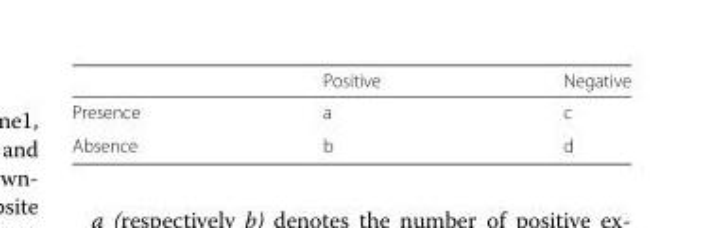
<table><thead><tr><td></td><td>Positive</td><td>Negative</td></tr></thead><tbody><tr><td>Presence</td><td>a</td><td>c</td></tr><tr><td>Absence</td><td>b</td><td>d</td></tr></tbody></table>